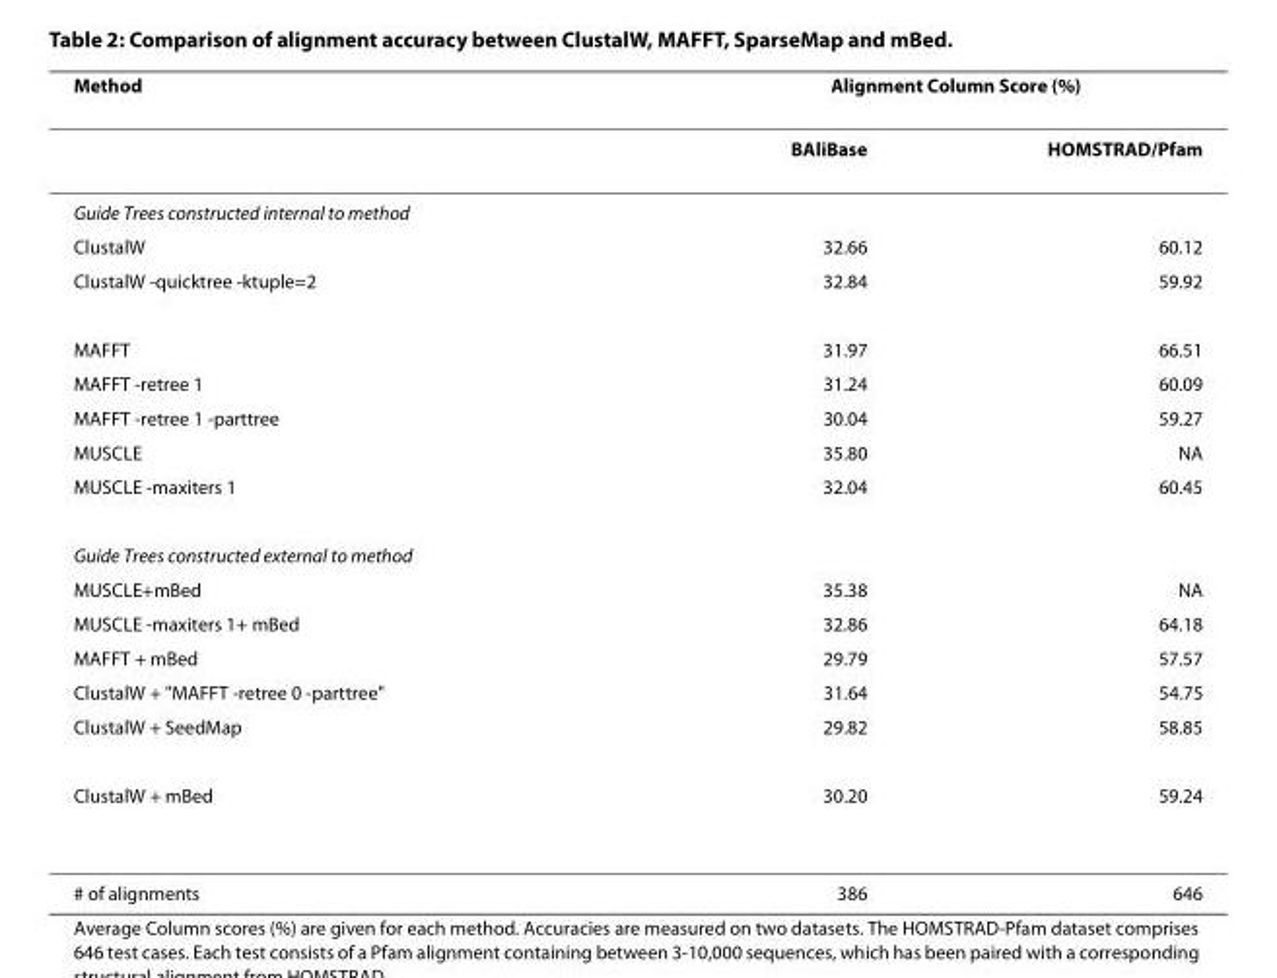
<table><thead><tr><td rowspan="2">Method</td><td colspan="2">Alignment Column Score (%)</td></tr><tr><td>BAliBase</td><td>HOMSTRAD/Pfam</td></tr></thead><tbody><tr><td colspan="3">Guide Trees constructed internal to method</td></tr><tr><td>ClustalW</td><td>32.66</td><td>60.12</td></tr><tr><td>ClustalW -quicktree -ktuple=2</td><td>32.84</td><td>59.92</td></tr><tr><td>MAFFT</td><td>31.97</td><td>66.51</td></tr><tr><td>MAFFT -retree 1</td><td>31.24</td><td>60.09</td></tr><tr><td>MAFFT -retree 1 -parttree</td><td>30.04</td><td>59.27</td></tr><tr><td>MUSCLE</td><td>35.80</td><td>NA</td></tr><tr><td>MUSCLE -maxiters 1</td><td>32.04</td><td>60.45</td></tr><tr><td colspan="3">Guide Trees constructed external to method</td></tr><tr><td>MUSCLE+mBed</td><td>35.38</td><td>NA</td></tr><tr><td>MUSCLE -maxiters 1+ mBed</td><td>32.86</td><td>64.18</td></tr><tr><td>MAFFT + mBed</td><td>29.79</td><td>57.57</td></tr><tr><td>ClustalW + &quot;MAFFT -retree 0 -parttree&quot;</td><td>31.64</td><td>54.75</td></tr><tr><td>ClustalW + SeedMap</td><td>29.82</td><td>58.85</td></tr><tr><td>ClustalW + mBed</td><td>30.20</td><td>59.24</td></tr><tr><td># of alignments</td><td>386</td><td>646</td></tr></tbody></table>